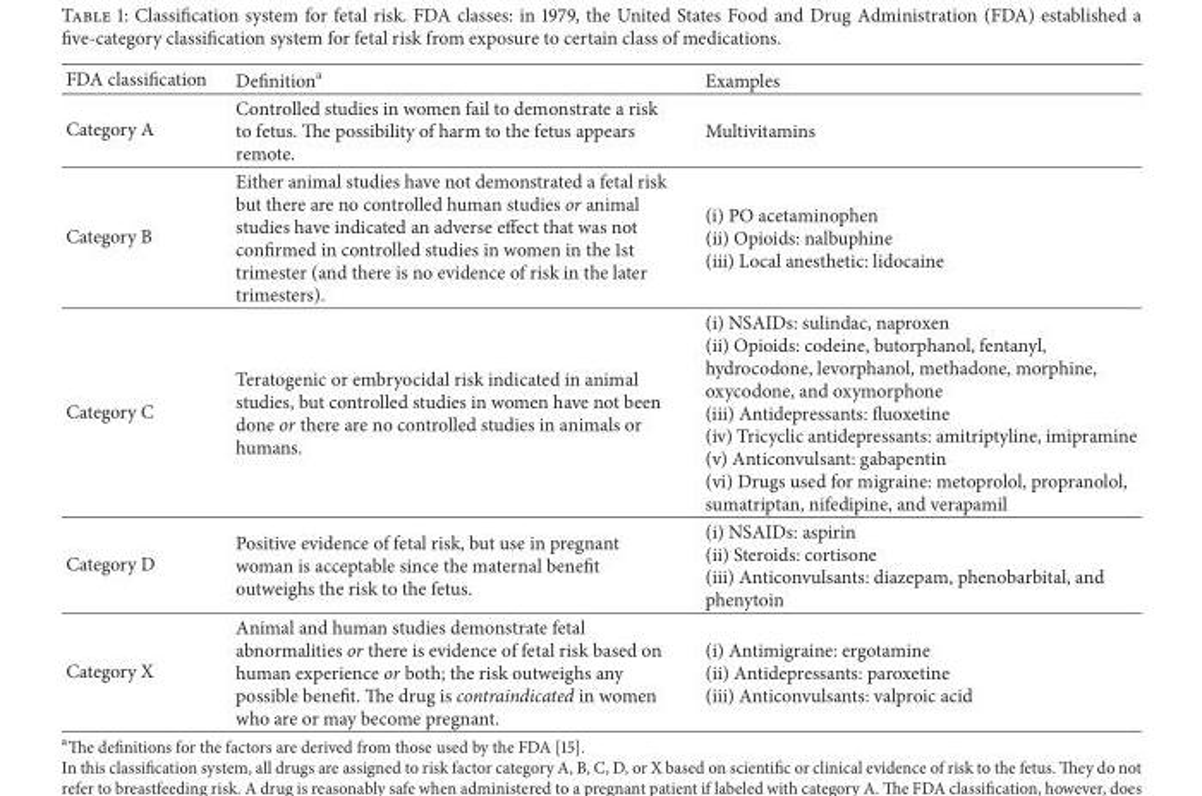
<table><thead><tr><td>FDA classification</td><td>Definition<sup>a</sup></td><td>Examples</td></tr></thead><tbody><tr><td>Category A</td><td>Controlled studies in women fail to demonstrate a risk to fetus. The possibility of harm to the fetus appears remote.</td><td>Multivitamins</td></tr><tr><td>Category B</td><td>Either animal studies have not demonstrated a fetal risk but there are no controlled human studies or animal studies have indicated an adverse effect that was not confirmed in controlled studies in women in the 1st trimester (and there is no evidence of risk in the later trimesters).</td><td>(i) PO acetaminophen (ii) Opioids: nalbuphine (iii) Local anesthetic: lidocaine</td></tr><tr><td>Category C</td><td>Teratogenic or embryocidal risk indicated in animal studies, but controlled studies in women have not been done or there are no controlled studies in animals or humans.</td><td>(i) NSAIDs: sulindac, naproxen (ii) Opioids: codeine, butorphanol, fentanyl, hydrocodone, levorphanol, methadone, morphine, oxycodone, and oxymorphone (iii) Antidepressants: fluoxetine (iv) Tricyclic antidepressants: amitriptyline, imipramine (v) Anticonvulsant: gabapentin (vi) Drugs used for migraine: metoprolol, propranolol, sumatriptan, nifedipine, and verapamil</td></tr><tr><td>Category D</td><td>Positive evidence of fetal risk, but use in pregnant woman is acceptable since the maternal benefit outweighs the risk to the fetus.</td><td>(i) NSAIDs: aspirin (ii) Steroids: cortisone (iii) Anticonvulsants: diazepam, phenobarbital, and phenytoin</td></tr><tr><td>Category X</td><td>Animal and human studies demonstrate fetal abnormalities or there is evidence of fetal risk based on human experience or both; the risk outweighs any possible benefit. The drug is contraindicated in women who are or may become pregnant.</td><td>(i) Antimigraine: ergotamine (ii) Antidepressants: paroxetine (iii) Anticonvulsants: valproic acid</td></tr></tbody></table>